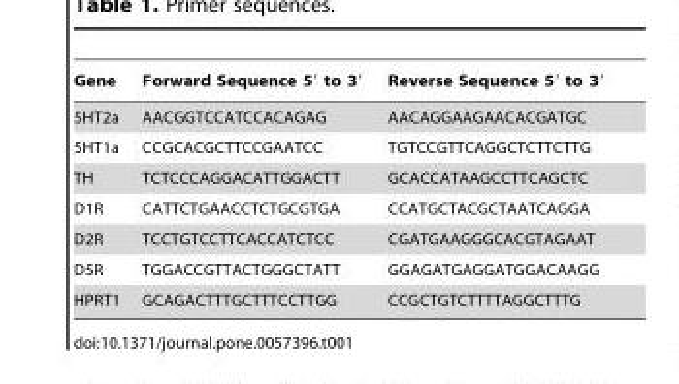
<table><thead><tr><td>Gene</td><td>Forward Sequence 5′ to 3′</td><td>Reverse Sequence 5′ to 3′</td></tr></thead><tbody><tr><td>5HT2a</td><td>AACGGTCCATCCACAGAG</td><td>AACAGGAAGAACACGATGC</td></tr><tr><td>5HT1a</td><td>CCGCACGCTTCCGAATCC</td><td>TGTCCGTTCAGGCTCTTCTTG</td></tr><tr><td>TH</td><td>TCTCCCAGGACATTGGACTT</td><td>GCACCATAAGCCTTCAGCTC</td></tr><tr><td>D1R</td><td>CATTCTGAACCTCTGCGTGA</td><td>CCATGCTACGCTAATCAGGA</td></tr><tr><td>D2R</td><td>TCCTGTCCTTCACCATCTCC</td><td>CGATGAAGGGCACGTAGAAT</td></tr><tr><td>D5R</td><td>TGGACCGTTACTGGGCTATT</td><td>GGAGATGAGGATGGACAAGG</td></tr><tr><td>HPRT1</td><td>GCAGACTTTGCTTTCCTTGG</td><td>CCGCTGTCTTTTAGGCTTTG</td></tr></tbody></table>